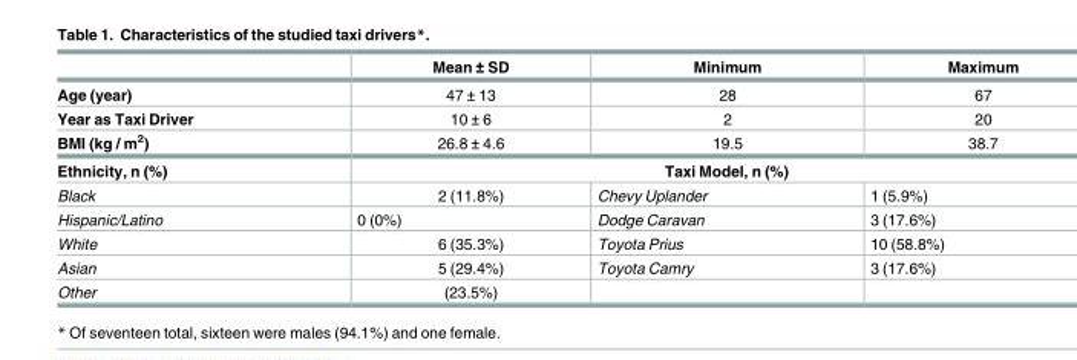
<table><thead><tr><td></td><td>Mean ± SD</td><td>Minimum</td><td>Maximum</td></tr></thead><tbody><tr><td>Age (year)</td><td>47 ± 13</td><td>28</td><td>67</td></tr><tr><td>Year as Taxi Driver</td><td>10 ± 6</td><td>2</td><td>20</td></tr><tr><td>BMI (kg / m<sup>2</sup>)</td><td>26.8 ± 4.6</td><td>19.5</td><td>38.7</td></tr><tr><td>Ethnicity, n (%)</td><td colspan="3">Taxi Model, n (%)</td></tr><tr><td>Black</td><td>2 (11.8%)</td><td>Chevy Uplander</td><td>1 (5.9%)</td></tr><tr><td>Hispanic/Latino</td><td>0 (0%)</td><td>Dodge Caravan</td><td>3 (17.6%)</td></tr><tr><td>White</td><td>6 (35.3%)</td><td>Toyota Prius</td><td>10 (58.8%)</td></tr><tr><td>Asian</td><td>5 (29.4%)</td><td>Toyota Camry</td><td>3 (17.6%)</td></tr><tr><td>Other</td><td>(23.5%)</td><td></td><td></td></tr></tbody></table>